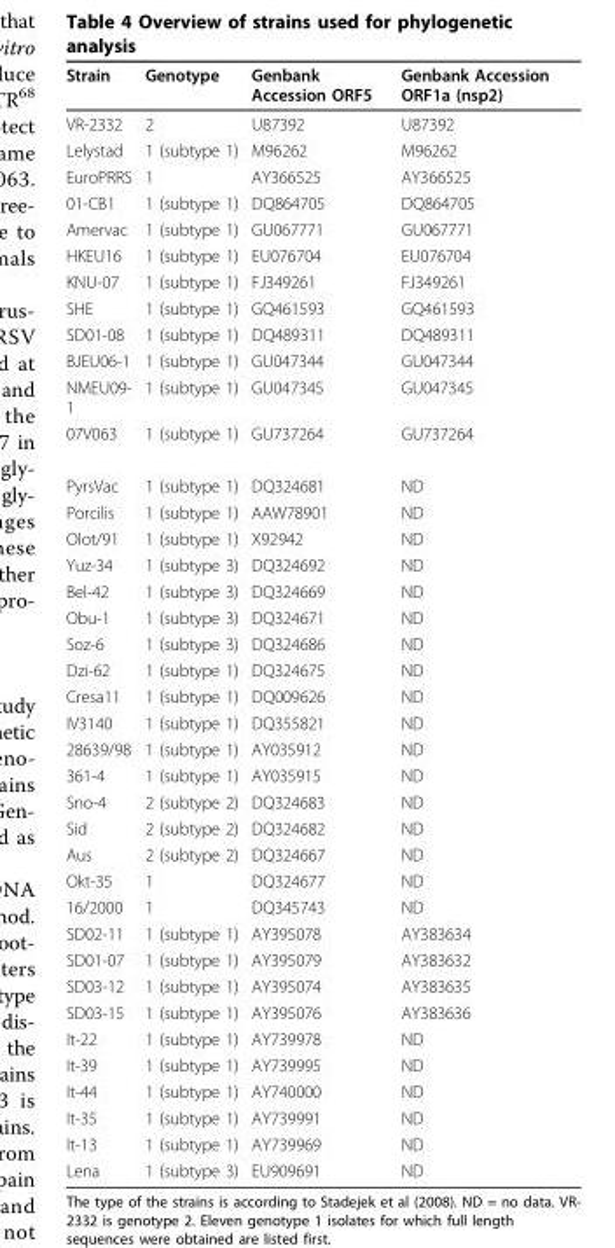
<table><thead><tr><td>Strain</td><td>Genotype</td><td>Genbank Accession ORF5</td><td>Genbank Accession ORF1a (nsp2)</td></tr></thead><tbody><tr><td>VR-2332</td><td>2</td><td>U87392</td><td>U87392</td></tr><tr><td>Lelystad</td><td>1 (subtype 1)</td><td>M96262</td><td>M96262</td></tr><tr><td>EuroPRRS</td><td>1</td><td>AY366525</td><td>AY366525</td></tr><tr><td>01-CB1</td><td>1 (subtype 1)</td><td>DQ864705</td><td>DQ864705</td></tr><tr><td>Amervac</td><td>1 (subtype 1)</td><td>GU067771</td><td>GU067771</td></tr><tr><td>HKEU16</td><td>1 (subtype 1)</td><td>EU076704</td><td>EU076704</td></tr><tr><td>KNU-07</td><td>1 (subtype 1)</td><td>FJ349261</td><td>FJ349261</td></tr><tr><td>SHE</td><td>1 (subtype 1)</td><td>GQ461593</td><td>GQ461593</td></tr><tr><td>SD01-08</td><td>1 (subtype 1)</td><td>DQ489311</td><td>DQ489311</td></tr><tr><td>BJEU06-1</td><td>1 (subtype 1)</td><td>GU047344</td><td>GU047344</td></tr><tr><td>NMEU09- 1</td><td>1 (subtype 1)</td><td>GU047345</td><td>GU047345</td></tr><tr><td>07V063</td><td>1 (subtype 1)</td><td>GU737264</td><td>GU737264</td></tr><tr><td>PyrsVac</td><td>1 (subtype 1)</td><td>DQ324681</td><td>ND</td></tr><tr><td>Porcilis</td><td>1 (subtype 1)</td><td>AAW78901</td><td>ND</td></tr><tr><td>Olot/91</td><td>1 (subtype 1)</td><td>X92942</td><td>ND</td></tr><tr><td>Yuz-34</td><td>1 (subtype 3)</td><td>DQ324692</td><td>ND</td></tr><tr><td>Bel-42</td><td>1 (subtype 3)</td><td>DQ324669</td><td>ND</td></tr><tr><td>Obu-1</td><td>1 (subtype 3)</td><td>DQ324671</td><td>ND</td></tr><tr><td>Soz-6</td><td>1 (subtype 3)</td><td>DQ324686</td><td>ND</td></tr><tr><td>Dzi-62</td><td>1 (subtype 1)</td><td>DQ324675</td><td>ND</td></tr><tr><td>Cresa11</td><td>1 (subtype 1)</td><td>DQ009626</td><td>ND</td></tr><tr><td>IV3140</td><td>1 (subtype 1)</td><td>DQ355821</td><td>ND</td></tr><tr><td>28639/98</td><td>1 (subtype 1)</td><td>AY035912</td><td>ND</td></tr><tr><td>361-4</td><td>1 (subtype 1)</td><td>AY035915</td><td>ND</td></tr><tr><td>Sno-4</td><td>2 (subtype 2)</td><td>DQ324683</td><td>ND</td></tr><tr><td>Sid</td><td>2 (subtype 2)</td><td>DQ324682</td><td>ND</td></tr><tr><td>Aus</td><td>2 (subtype 2)</td><td>DQ324667</td><td>ND</td></tr><tr><td>Okt-35</td><td>1</td><td>DQ324677</td><td>ND</td></tr><tr><td>16/2000</td><td>1</td><td>DQ345743</td><td>ND</td></tr><tr><td>SD02-11</td><td>1 (subtype 1)</td><td>AY395078</td><td>AY383634</td></tr><tr><td>SD01-07</td><td>1 (subtype 1)</td><td>AY395079</td><td>AY383632</td></tr><tr><td>SD03-12</td><td>1 (subtype 1)</td><td>AY395074</td><td>AY383635</td></tr><tr><td>SD03-15</td><td>1 (subtype 1)</td><td>AY395076</td><td>AY383636</td></tr><tr><td>It-22</td><td>1 (subtype 1)</td><td>AY739978</td><td>ND</td></tr><tr><td>It-39</td><td>1 (subtype 1)</td><td>AY739995</td><td>ND</td></tr><tr><td>It-44</td><td>1 (subtype 1)</td><td>AY740000</td><td>ND</td></tr><tr><td>It-35</td><td>1 (subtype 1)</td><td>AY739991</td><td>ND</td></tr><tr><td>It-13</td><td>1 (subtype 1)</td><td>AY739969</td><td>ND</td></tr><tr><td>Lena</td><td>1 (subtype 3)</td><td>EU909691</td><td>ND</td></tr></tbody></table>